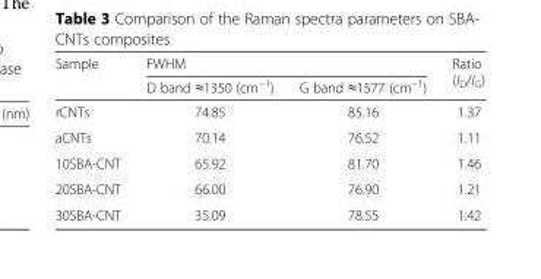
<table><thead><tr><td rowspan="2">Sample</td><td colspan="2">FWHM</td><td rowspan="2">Ratio (I<sub>D</sub>/I<sub>G</sub>)</td></tr><tr><td>D band ≈1350 (cm<sup>−1</sup>)</td><td>G band ≈1577 (cm<sup>−1</sup>)</td></tr></thead><tbody><tr><td>rCNTs</td><td>74.85</td><td>85.16</td><td>1.37</td></tr><tr><td>aCNTs</td><td>70.14</td><td>76.52</td><td>1.11</td></tr><tr><td>10SBA-CNT</td><td>65.92</td><td>81.70</td><td>1.46</td></tr><tr><td>20SBA-CNT</td><td>66.00</td><td>76.90</td><td>1.21</td></tr><tr><td>30SBA-CNT</td><td>35.09</td><td>78.55</td><td>1.42</td></tr></tbody></table>